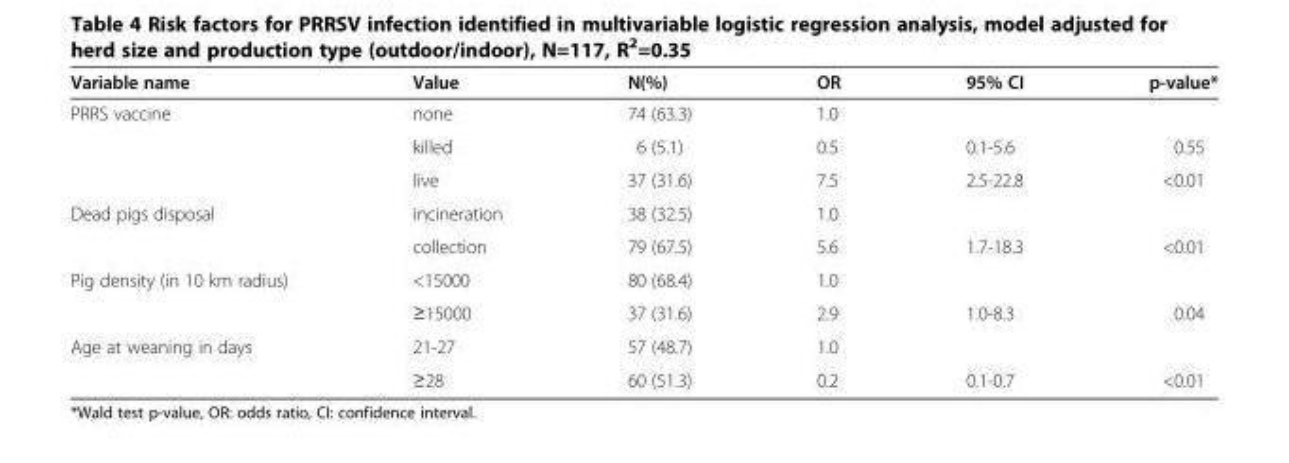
<table><thead><tr><td>Variable name</td><td>Value</td><td>N(%)</td><td>OR</td><td>95% CI</td><td>p-value*</td></tr></thead><tbody><tr><td rowspan="3">PRRS vaccine</td><td>none</td><td>74 (63.3)</td><td>1.0</td><td></td><td></td></tr><tr><td>killed</td><td>6 (5.1)</td><td>0.5</td><td>0.1-5.6</td><td>0.55</td></tr><tr><td>live</td><td>37 (31.6)</td><td>7.5</td><td>2.5-22.8</td><td>&lt;0.01</td></tr><tr><td rowspan="2">Dead pigs disposal</td><td>incineration</td><td>38 (32.5)</td><td>1.0</td><td></td><td></td></tr><tr><td>collection</td><td>79 (67.5)</td><td>5.6</td><td>1.7-18.3</td><td>&lt;0.01</td></tr><tr><td rowspan="2">Pig density (in 10 km radius)</td><td>&lt;15000</td><td>80 (68.4)</td><td>1.0</td><td></td><td></td></tr><tr><td>≥15000</td><td>37 (31.6)</td><td>2.9</td><td>1.0-8.3</td><td>0.04</td></tr><tr><td rowspan="2">Age at weaning in days</td><td>21-27</td><td>57 (48.7)</td><td>1.0</td><td></td><td></td></tr><tr><td>≥28</td><td>60 (51.3)</td><td>0.2</td><td>0.1-0.7</td><td>&lt;0.01</td></tr></tbody></table>